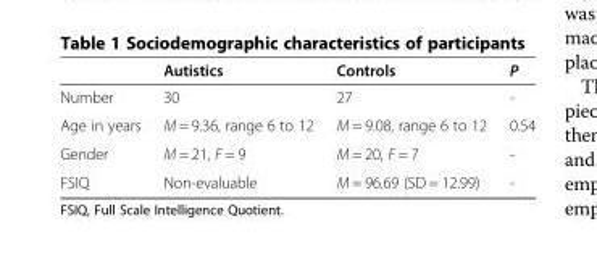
<table><thead><tr><td></td><td>Autistics</td><td>Controls</td><td>P</td></tr></thead><tbody><tr><td>Number</td><td>30</td><td>27</td><td>-</td></tr><tr><td>Age in years</td><td>M = 9.36, range 6 to 12</td><td>M = 9.08, range 6 to 12</td><td>0.54</td></tr><tr><td>Gender</td><td>M = 21, F = 9</td><td>M = 20, F = 7</td><td>-</td></tr><tr><td>FSIQ</td><td>Non-evaluable</td><td>M = 96.69 (SD = 12.99)</td><td>-</td></tr></tbody></table>